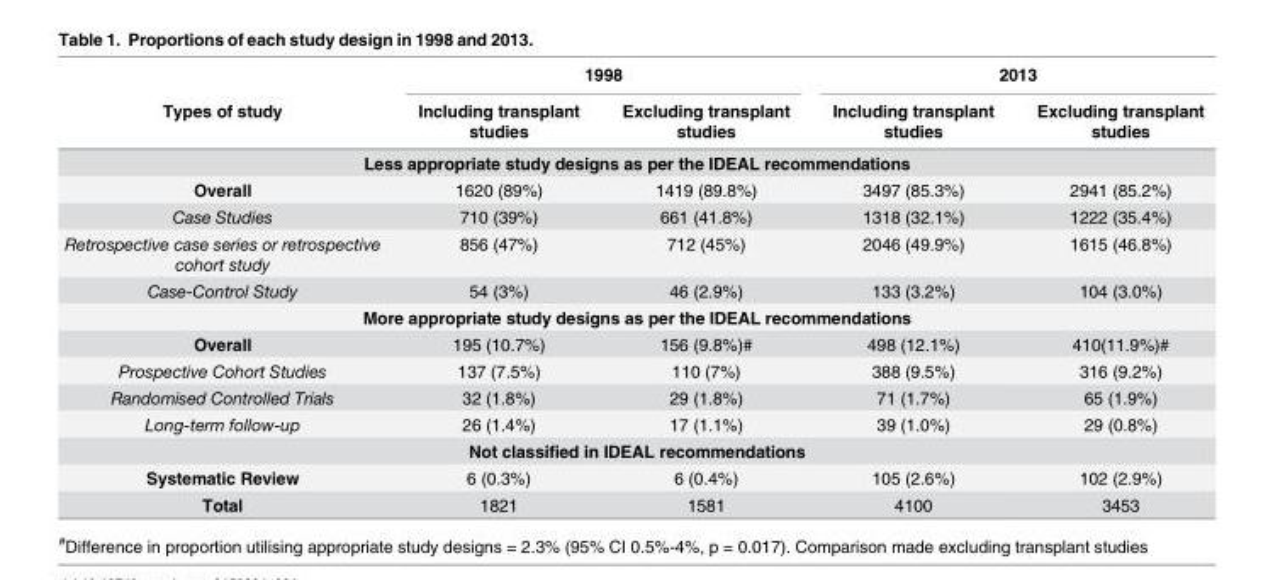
<table><thead><tr><td rowspan="2">Types of study</td><td colspan="2">1998</td><td colspan="2">2013</td></tr><tr><td>Including transplant studies</td><td>Excluding transplant studies</td><td>Including transplant studies</td><td>Excluding transplant studies</td></tr></thead><tbody><tr><td colspan="5">Less appropriate study designs as per the IDEAL recommendations</td></tr><tr><td>Overall</td><td>1620 (89%)</td><td>1419 (89.8%)</td><td>3497 (85.3%)</td><td>2941 (85.2%)</td></tr><tr><td>Case Studies</td><td>710 (39%)</td><td>661 (41.8%)</td><td>1318 (32.1%)</td><td>1222 (35.4%)</td></tr><tr><td>Retrospective case series or retrospective cohort study</td><td>856 (47%)</td><td>712 (45%)</td><td>2046 (49.9%)</td><td>1615 (46.8%)</td></tr><tr><td>Case-Control Study</td><td>54 (3%)</td><td>46 (2.9%)</td><td>133 (3.2%)</td><td>104 (3.0%)</td></tr><tr><td colspan="5">More appropriate study designs as per the IDEAL recommendations</td></tr><tr><td>Overall</td><td>195 (10.7%)</td><td>156 (9.8%)#</td><td>498 (12.1%)</td><td>410(11.9%)#</td></tr><tr><td>Prospective Cohort Studies</td><td>137 (7.5%)</td><td>110 (7%)</td><td>388 (9.5%)</td><td>316 (9.2%)</td></tr><tr><td>Randomised Controlled Trials</td><td>32 (1.8%)</td><td>29 (1.8%)</td><td>71 (1.7%)</td><td>65 (1.9%)</td></tr><tr><td>Long-term follow-up</td><td>26 (1.4%)</td><td>17 (1.1%)</td><td>39 (1.0%)</td><td>29 (0.8%)</td></tr><tr><td colspan="5">Not classified in IDEAL recommendations</td></tr><tr><td>Systematic Review</td><td>6 (0.3%)</td><td>6 (0.4%)</td><td>105 (2.6%)</td><td>102 (2.9%)</td></tr><tr><td>Total</td><td>1821</td><td>1581</td><td>4100</td><td>3453</td></tr></tbody></table>